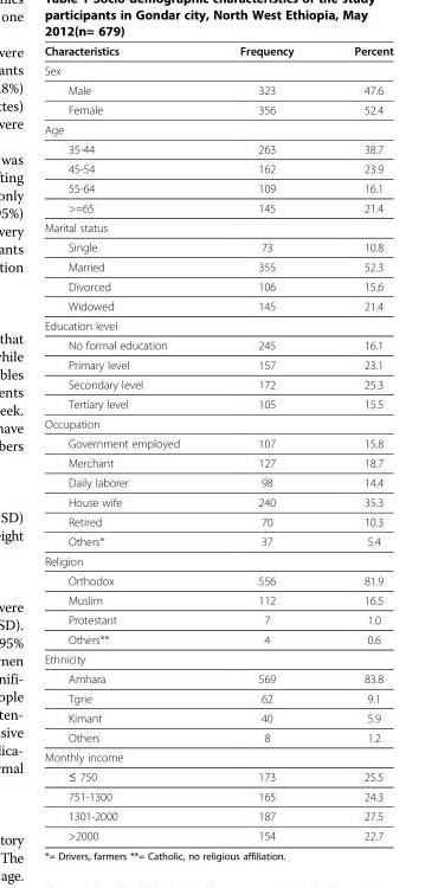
<table><thead><tr><td>Characteristics</td><td>Frequency</td><td>Percent</td></tr></thead><tbody><tr><td colspan="3">Sex</td></tr><tr><td>Male</td><td>323</td><td>47.6</td></tr><tr><td>Female</td><td>356</td><td>52.4</td></tr><tr><td colspan="3">Age</td></tr><tr><td>35-44</td><td>263</td><td>38.7</td></tr><tr><td>45-54</td><td>162</td><td>23.9</td></tr><tr><td>55-64</td><td>109</td><td>16.1</td></tr><tr><td>&gt;=65</td><td>145</td><td>21.4</td></tr><tr><td colspan="3">Marital status</td></tr><tr><td>Single</td><td>73</td><td>10.8</td></tr><tr><td>Married</td><td>355</td><td>52.3</td></tr><tr><td>Divorced</td><td>106</td><td>15.6</td></tr><tr><td>Widowed</td><td>145</td><td>21.4</td></tr><tr><td colspan="3">Education level</td></tr><tr><td>No formal education</td><td>245</td><td>16.1</td></tr><tr><td>Primary level</td><td>157</td><td>23.1</td></tr><tr><td>Secondary level</td><td>172</td><td>25.3</td></tr><tr><td>Tertiary level</td><td>105</td><td>15.5</td></tr><tr><td colspan="3">Occupation</td></tr><tr><td>Government employed</td><td>107</td><td>15.8</td></tr><tr><td>Merchant</td><td>127</td><td>18.7</td></tr><tr><td>Daily laborer</td><td>98</td><td>14.4</td></tr><tr><td>House wife</td><td>240</td><td>35.3</td></tr><tr><td>Retired</td><td>70</td><td>10.3</td></tr><tr><td>Others*</td><td>37</td><td>5.4</td></tr><tr><td colspan="3">Religion</td></tr><tr><td>Orthodox</td><td>556</td><td>81.9</td></tr><tr><td>Muslim</td><td>112</td><td>16.5</td></tr><tr><td>Protestant</td><td>7</td><td>1.0</td></tr><tr><td>Others**</td><td>4</td><td>0.6</td></tr><tr><td colspan="3">Ethnicity</td></tr><tr><td>Amhara</td><td>569</td><td>83.8</td></tr><tr><td>Tgrie</td><td>62</td><td>9.1</td></tr><tr><td>Kimant</td><td>40</td><td>5.9</td></tr><tr><td>Others</td><td>8</td><td>1.2</td></tr><tr><td colspan="3">Monthly income</td></tr><tr><td>≤ 750</td><td>173</td><td>25.5</td></tr><tr><td>751-1300</td><td>165</td><td>24.3</td></tr><tr><td>1301-2000</td><td>187</td><td>27.5</td></tr><tr><td>&gt;2000</td><td>154</td><td>22.7</td></tr></tbody></table>